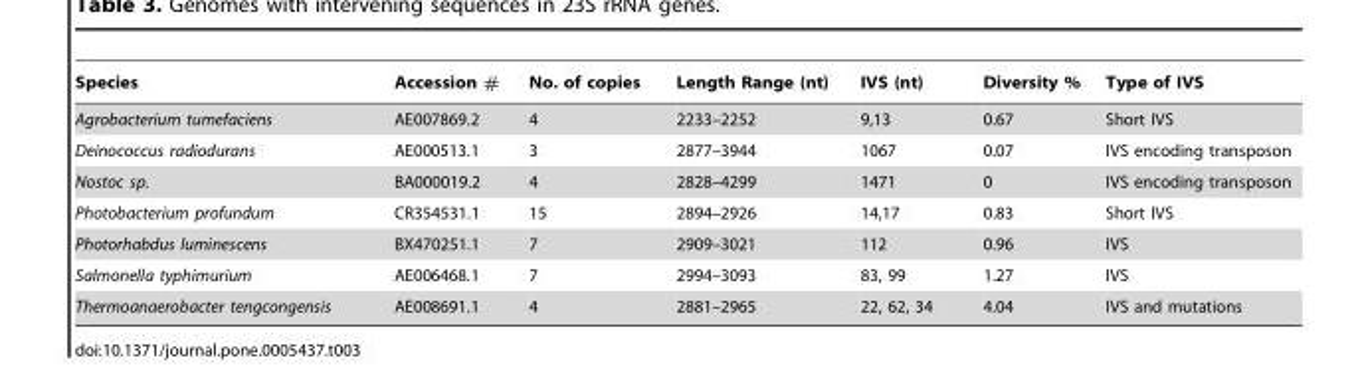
<table><thead><tr><td>Species</td><td>Accession #</td><td>No. of copies</td><td>Length Range (nt)</td><td>IVS (nt)</td><td>Diversity %</td><td>Type of IVS</td></tr></thead><tbody><tr><td>Agrobacterium tumefaciens</td><td>AE007869.2</td><td>4</td><td>2233–2252</td><td>9,13</td><td>0.67</td><td>Short IVS</td></tr><tr><td>Deinococcus radiodurans</td><td>AE000513.1</td><td>3</td><td>2877–3944</td><td>1067</td><td>0.07</td><td>IVS encoding transposon</td></tr><tr><td>Nostoc sp.</td><td>BA000019.2</td><td>4</td><td>2828–4299</td><td>1471</td><td>0</td><td>IVS encoding transposon</td></tr><tr><td>Photobacterium profundum</td><td>CR354531.1</td><td>15</td><td>2894–2926</td><td>14,17</td><td>0.83</td><td>Short IVS</td></tr><tr><td>Photorhabdus luminescens</td><td>BX470251.1</td><td>7</td><td>2909–3021</td><td>112</td><td>0.96</td><td>IVS</td></tr><tr><td>Salmonella typhimurium</td><td>AE006468.1</td><td>7</td><td>2994–3093</td><td>83, 99</td><td>1.27</td><td>IVS</td></tr><tr><td>Thermoanaerobacter tengcongensis</td><td>AE008691.1</td><td>4</td><td>2881–2965</td><td>22, 62, 34</td><td>4.04</td><td>IVS and mutations</td></tr></tbody></table>